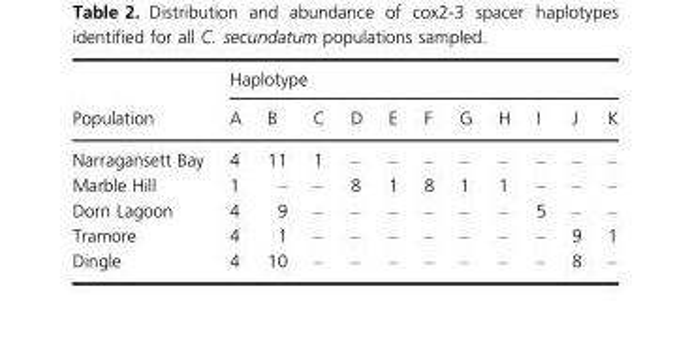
<table><thead><tr><td rowspan="2">Population</td><td colspan="11">Haplotype</td></tr><tr><td>A</td><td>B</td><td>C</td><td>D</td><td>E</td><td>F</td><td>G</td><td>H</td><td>I</td><td>J</td><td>K</td></tr></thead><tbody><tr><td>Narragansett Bay</td><td>4</td><td>11</td><td>1</td><td>–</td><td>–</td><td>–</td><td>–</td><td>–</td><td>–</td><td>–</td><td>–</td></tr><tr><td>Marble Hill</td><td>1</td><td>–</td><td>–</td><td>8</td><td>1</td><td>8</td><td>1</td><td>1</td><td>–</td><td>–</td><td>–</td></tr><tr><td>Dorn Lagoon</td><td>4</td><td>9</td><td>–</td><td>–</td><td>–</td><td>–</td><td>–</td><td>–</td><td>5</td><td>–</td><td>–</td></tr><tr><td>Tramore</td><td>4</td><td>1</td><td>–</td><td>–</td><td>–</td><td>–</td><td>–</td><td>–</td><td>–</td><td>9</td><td>1</td></tr><tr><td>Dingle</td><td>4</td><td>10</td><td>–</td><td>–</td><td>–</td><td>–</td><td>–</td><td>–</td><td>–</td><td>8</td><td>–</td></tr></tbody></table>